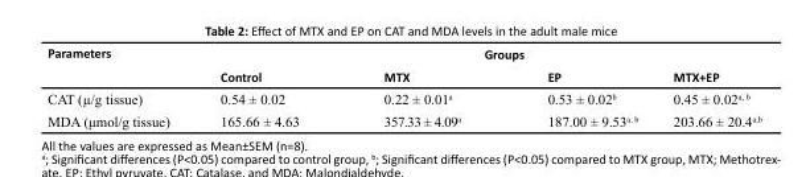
<table><thead><tr><td rowspan="2">Parameters</td><td colspan="4">Groups</td></tr><tr><td>Control</td><td>MTX</td><td>EP</td><td>MTX+EP</td></tr></thead><tbody><tr><td>CAT (µ/g tissue)</td><td>0.54 ± 0.02</td><td>0.22 ± 0.01<sup>a</sup></td><td>0.53 ± 0.02<sup>b</sup></td><td>0.45 ± 0.02<sup>a, b</sup></td></tr><tr><td>MDA (μmol/g tissue)</td><td>165.66 ± 4.63</td><td>357.33 ± 4.09<sup>a</sup></td><td>187.00 ± 9.53a, b</td><td>203.66 ± 20.4<sup>a,b</sup></td></tr></tbody></table>